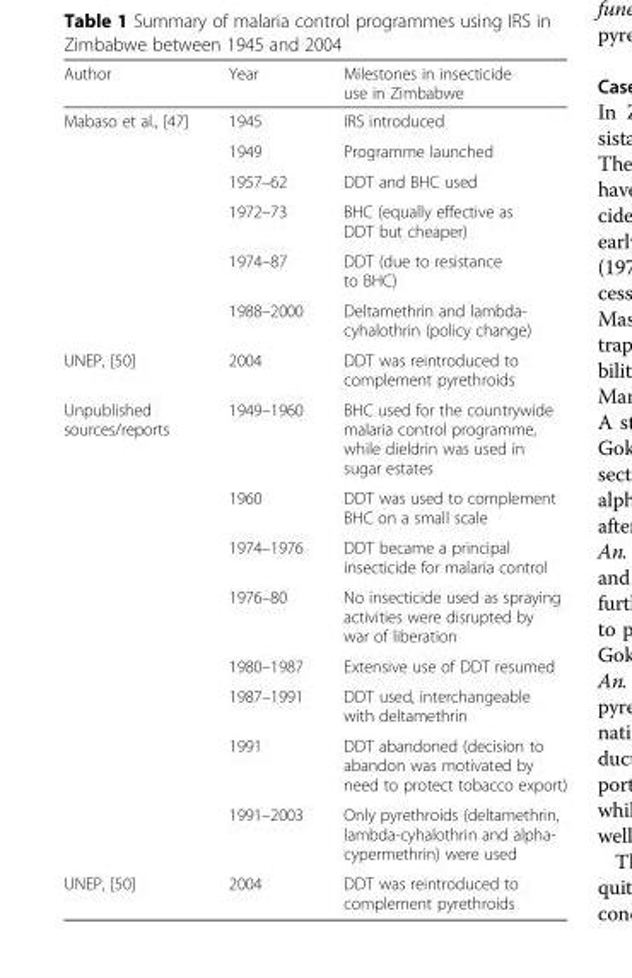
<table><thead><tr><td>Author</td><td>Year</td><td>Milestones in insecticide use in Zimbabwe</td></tr></thead><tbody><tr><td rowspan="6">Mabaso et al., [47]</td><td>1945</td><td>IRS introduced</td></tr><tr><td>1949</td><td>Programme launched</td></tr><tr><td>1957–62</td><td>DDT and BHC used</td></tr><tr><td>1972–73</td><td>BHC (equally effective as DDT but cheaper)</td></tr><tr><td>1974–87</td><td>DDT (due to resistance to BHC)</td></tr><tr><td>1988–2000</td><td>Deltamethrin and lambda- cyhalothrin (policy change)</td></tr><tr><td>UNEP, [50]</td><td>2004</td><td>DDT was reintroduced to complement pyrethroids</td></tr><tr><td rowspan="8">Unpublished sources/reports</td><td>1949–1960</td><td>BHC used for the countrywide malaria control programme, while dieldrin was used in sugar estates</td></tr><tr><td>1960</td><td>DDT was used to complement BHC on a small scale</td></tr><tr><td>1974–1976</td><td>DDT became a principal insecticide for malaria control</td></tr><tr><td>1976–80</td><td>No insecticide used as spraying activities were disrupted by war of liberation</td></tr><tr><td>1980–1987</td><td>Extensive use of DDT resumed</td></tr><tr><td>1987–1991</td><td>DDT used, interchangeable with deltamethrin</td></tr><tr><td>1991</td><td>DDT abandoned (decision to abandon was motivated by need to protect tobacco export)</td></tr><tr><td>1991–2003</td><td>Only pyrethroids (deltamethrin, lambda-cyhalothrin and alpha- cypermethrin) were used</td></tr><tr><td>UNEP, [50]</td><td>2004</td><td>DDT was reintroduced to complement pyrethroids</td></tr></tbody></table>